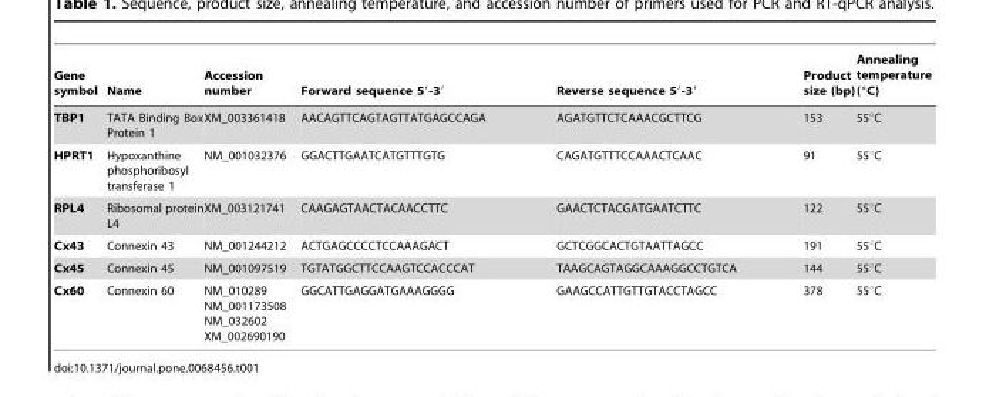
<table><thead><tr><td>Gene symbol</td><td>Name</td><td>Accession number</td><td>Forward sequence 5′-3′</td><td>Reverse sequence 5′-3′</td><td>Product size (bp)</td><td>Annealing temperature (°C)</td></tr></thead><tbody><tr><td>TBP1</td><td>TATA Binding Box Protein 1</td><td>XM_003361418</td><td>AACAGTTCAGTAGTTATGAGCCAGA</td><td>AGATGTTCTCAAACGCTTCG</td><td>153</td><td>55°C</td></tr><tr><td>HPRT1</td><td>Hypoxanthine phosphoribosyl transferase 1</td><td>NM_001032376</td><td>GGACTTGAATCATGTTTGTG</td><td>CAGATGTTTCCAAACTCAAC</td><td>91</td><td>55°C</td></tr><tr><td>RPL4</td><td>Ribosomal protein L4</td><td>XM_003121741</td><td>CAAGAGTAACTACAACCTTC</td><td>GAACTCTACGATGAATCTTC</td><td>122</td><td>55°C</td></tr><tr><td>Cx43</td><td>Connexin 43</td><td>NM_001244212</td><td>ACTGAGCCCCTCCAAAGACT</td><td>GCTCGGCACTGTAATTAGCC</td><td>191</td><td>55°C</td></tr><tr><td>Cx45</td><td>Connexin 45</td><td>NM_001097519</td><td>TGTATGGCTTCCAAGTCCACCCAT</td><td>TAAGCAGTAGGCAAAGGCCTGTCA</td><td>144</td><td>55°C</td></tr><tr><td>Cx60</td><td>Connexin 60</td><td>NM_010289 NM_001173508 NM_032602 XM_002690190</td><td>GGCATTGAGGATGAAAGGGG</td><td>GAAGCCATTGTTGTACCTAGCC</td><td>378</td><td>55°C</td></tr></tbody></table>